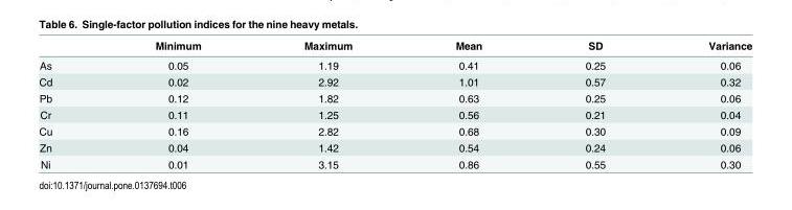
<table><thead><tr><td></td><td>Minimum</td><td>Maximum</td><td>Mean</td><td>SD</td><td>Variance</td></tr></thead><tbody><tr><td>As</td><td>0.05</td><td>1.19</td><td>0.41</td><td>0.25</td><td>0.06</td></tr><tr><td>Cd</td><td>0.02</td><td>2.92</td><td>1.01</td><td>0.57</td><td>0.32</td></tr><tr><td>Pb</td><td>0.12</td><td>1.82</td><td>0.63</td><td>0.25</td><td>0.06</td></tr><tr><td>Cr</td><td>0.11</td><td>1.25</td><td>0.56</td><td>0.21</td><td>0.04</td></tr><tr><td>Cu</td><td>0.16</td><td>2.82</td><td>0.68</td><td>0.30</td><td>0.09</td></tr><tr><td>Zn</td><td>0.04</td><td>1.42</td><td>0.54</td><td>0.24</td><td>0.06</td></tr><tr><td>Ni</td><td>0.01</td><td>3.15</td><td>0.86</td><td>0.55</td><td>0.30</td></tr></tbody></table>